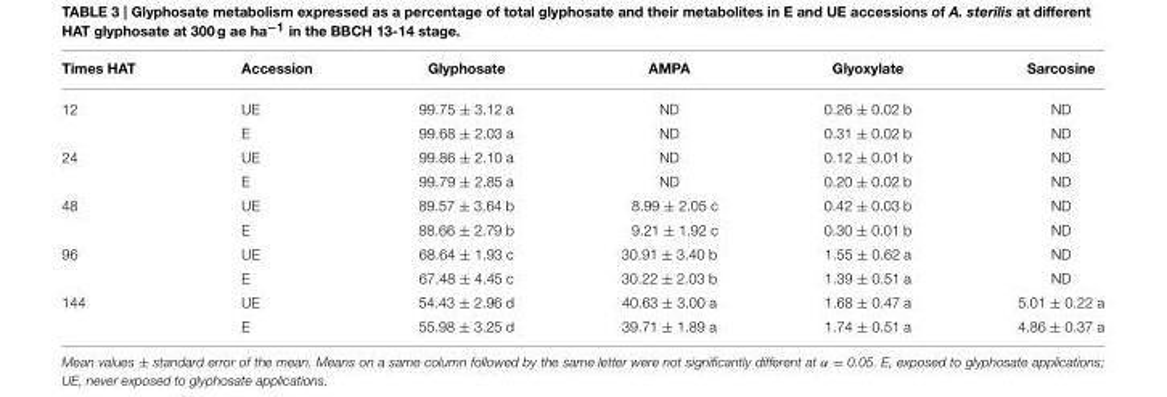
<table><thead><tr><td>Times HAT</td><td>Accession</td><td>Glyphosate</td><td>AMPA</td><td>Glyoxylate</td><td>Sarcosine</td></tr></thead><tbody><tr><td rowspan="2">12</td><td>UE</td><td>99.75 ± 3.12 a</td><td>ND</td><td>0.26 ± 0.02 b</td><td>ND</td></tr><tr><td>E</td><td>99.68 ± 2.03 a</td><td>ND</td><td>0.31 ± 0.02 b</td><td>ND</td></tr><tr><td rowspan="2">24</td><td>UE</td><td>99.86 ± 2.10 a</td><td>ND</td><td>0.12 ± 0.01 b</td><td>ND</td></tr><tr><td>E</td><td>99.79 ± 2.85 a</td><td>ND</td><td>0.20 ± 0.02 b</td><td>ND</td></tr><tr><td rowspan="2">48</td><td>UE</td><td>89.57 ± 3.64 b</td><td>8.99 ± 2.05 c</td><td>0.42 ± 0.03 b</td><td>ND</td></tr><tr><td>E</td><td>88.66 ± 2.79 b</td><td>9.21 ± 1.92 c</td><td>0.30 ± 0.01 b</td><td>ND</td></tr><tr><td rowspan="2">96</td><td>UE</td><td>68.64 ± 1.93 c</td><td>30.91 ± 3.40 b</td><td>1.55 ± 0.62 a</td><td>ND</td></tr><tr><td>E</td><td>67.48 ± 4.45 c</td><td>30.22 ± 2.03 b</td><td>1.39 ± 0.51 a</td><td>ND</td></tr><tr><td rowspan="2">144</td><td>UE</td><td>54.43 ± 2.96 d</td><td>40.63 ± 3.00 a</td><td>1.68 ± 0.47 a</td><td>5.01 ± 0.22 a</td></tr><tr><td>E</td><td>55.98 ± 3.25 d</td><td>39.71 ± 1.89 a</td><td>1.74 ± 0.51 a</td><td>4.86 ± 0.37 a</td></tr></tbody></table>